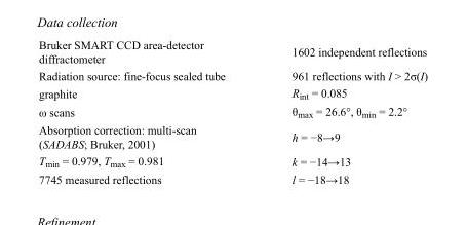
<table><tbody><tr><td>Bruker SMART CCD area-detector diffractometer</td><td>1602 independent reflections</td></tr><tr><td>Radiation source: fine-focus sealed tube</td><td>961 reflections with I &gt; 2σ(I)</td></tr><tr><td>graphite</td><td>R<sub>int</sub> = 0.085</td></tr><tr><td>ω scans</td><td>θ<sub>max</sub> = 26.6°, θ<sub>min</sub> = 2.2°</td></tr><tr><td>Absorption correction: multi-scan (SADABS; Bruker, 2001)</td><td>h = −8→9</td></tr><tr><td>T<sub>min</sub> = 0.979, T<sub>max</sub> = 0.981</td><td>k = −14→13</td></tr><tr><td>7745 measured reflections</td><td>l = −18→18</td></tr></tbody></table>